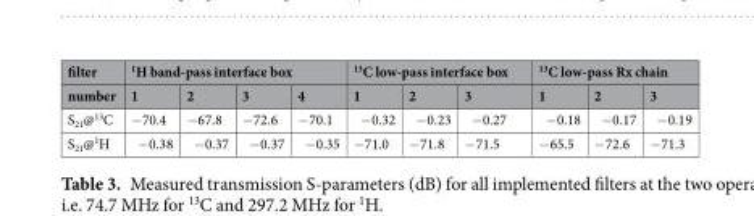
<table><thead><tr><td rowspan="2">filter number</td><td colspan="4"><sup>1</sup>H band-pass interface box</td><td colspan="3"><sup>13</sup>C low-pass interface box</td><td colspan="3"><sup>13</sup>C low-pass Rx chain</td></tr><tr><td>1</td><td>2</td><td>3</td><td>4</td><td>1</td><td>2</td><td>3</td><td>1</td><td>2</td><td>3</td></tr></thead><tbody><tr><td>S<sub>21</sub>@<sup>13</sup>C</td><td>−70.4</td><td>−67.8</td><td>−72.6</td><td>−70.1</td><td>−0.32</td><td>−0.23</td><td>−0.27</td><td>−0.18</td><td>−0.17</td><td>−0.19</td></tr><tr><td>S<sub>21</sub>@<sup>1</sup>H</td><td>−0.38</td><td>−0.37</td><td>−0.37</td><td>−0.35</td><td>−71.0</td><td>−71.8</td><td>−71.5</td><td>−65.5</td><td>−72.6</td><td>−71.3</td></tr></tbody></table>